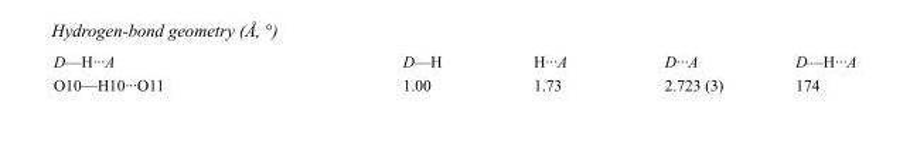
<table><tbody><tr><td>D—H···A</td><td>D—H</td><td>H···A</td><td>D···A</td><td>D—H···A</td></tr><tr><td>O10—H10···O11</td><td>1.00</td><td>1.73</td><td>2.723 (3)</td><td>174</td></tr></tbody></table>